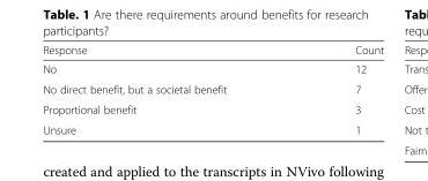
<table><thead><tr><td>Response</td><td>Count</td></tr></thead><tbody><tr><td>No</td><td>12</td></tr><tr><td>No direct benefit, but a societal benefit</td><td>7</td></tr><tr><td>Proportional benefit</td><td>3</td></tr><tr><td>Unsure</td><td>1</td></tr></tbody></table>